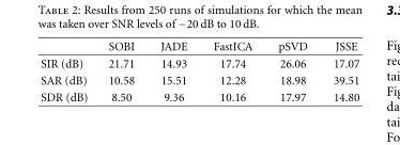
<table><thead><tr><td></td><td>SOBI</td><td>JADE</td><td>FastICA</td><td>pSVD</td><td>JSSE</td></tr></thead><tbody><tr><td>SIR (dB)</td><td>21.71</td><td>14.93</td><td>17.74</td><td>26.06</td><td>17.07</td></tr><tr><td>SAR (dB)</td><td>10.58</td><td>15.51</td><td>12.28</td><td>18.98</td><td>39.51</td></tr><tr><td>SDR (dB)</td><td>8.50</td><td>9.36</td><td>10.16</td><td>17.97</td><td>14.80</td></tr></tbody></table>